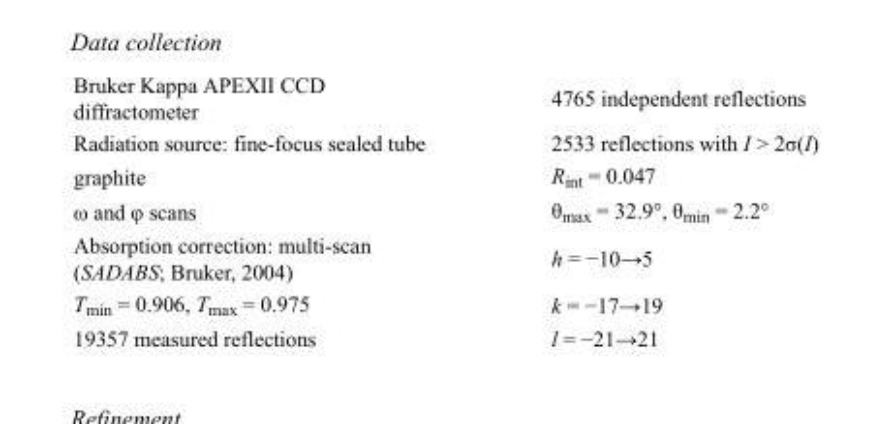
<table><tbody><tr><td>Bruker Kappa APEXII CCD diffractometer</td><td>4765 independent reflections</td></tr><tr><td>Radiation source: fine-focus sealed tube</td><td>2533 reflections with I &gt; 2σ(I)</td></tr><tr><td>graphite</td><td>R<sub>int</sub> = 0.047</td></tr><tr><td>ω and φ scans</td><td>θ<sub>max</sub> = 32.9°, θ<sub>min</sub> = 2.2°</td></tr><tr><td>Absorption correction: multi-scan (SADABS; Bruker, 2004)</td><td>h = −10→5</td></tr><tr><td>T<sub>min</sub> = 0.906, T<sub>max</sub> = 0.975</td><td>k = −17→19</td></tr><tr><td>19357 measured reflections</td><td>l = −21→21</td></tr></tbody></table>